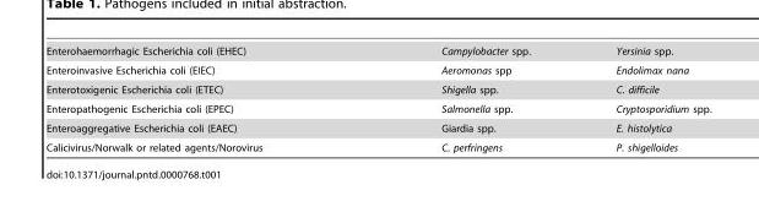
<table><tbody><tr><td>Enterohaemorrhagic Escherichia coli (EHEC)</td><td>Campylobacter spp.</td><td>Yersinia spp.</td></tr><tr><td>Enteroinvasive Escherichia coli (EIEC)</td><td>Aeromonas spp</td><td>Endolimax nana</td></tr><tr><td>Enterotoxigenic Escherichia coli (ETEC)</td><td>Shigella spp.</td><td>C. difficile</td></tr><tr><td>Enteropathogenic Escherichia coli (EPEC)</td><td>Salmonella spp.</td><td>Cryptosporidium spp.</td></tr><tr><td>Enteroaggregative Escherichia coli (EAEC)</td><td>Giardia spp.</td><td>E. histolytica</td></tr><tr><td>Calicivirus/Norwalk or related agents/Norovirus</td><td>C. perfringens</td><td>P. shigelloides</td></tr></tbody></table>